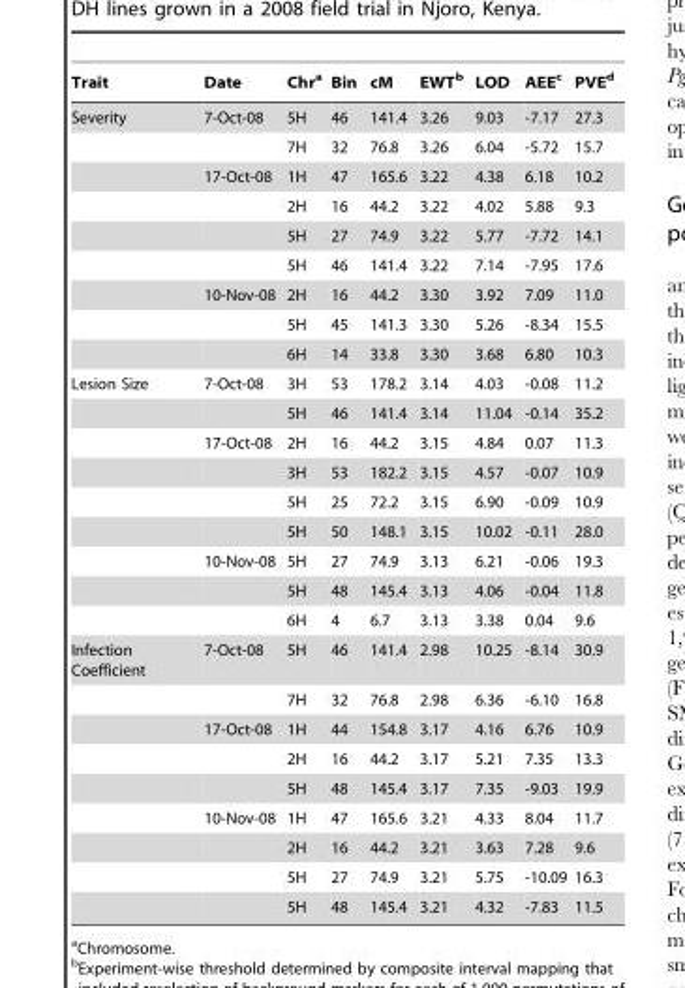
<table><thead><tr><td>Trait</td><td>Date</td><td>Chr<sup>a</sup></td><td>Bin</td><td>cM</td><td>EWT<sup>b</sup></td><td>LOD</td><td>AEE<sup>c</sup></td><td>PVE<sup>d</sup></td></tr></thead><tbody><tr><td rowspan="9">Severity</td><td>7-Oct-08</td><td>5H</td><td>46</td><td>141.4</td><td>3.26</td><td>9.03</td><td>-7.17</td><td>27.3</td></tr><tr><td></td><td>7H</td><td>32</td><td>76.8</td><td>3.26</td><td>6.04</td><td>-5.72</td><td>15.7</td></tr><tr><td>17-Oct-08</td><td>1H</td><td>47</td><td>165.6</td><td>3.22</td><td>4.38</td><td>6.18</td><td>10.2</td></tr><tr><td></td><td>2H</td><td>16</td><td>44.2</td><td>3.22</td><td>4.02</td><td>5.88</td><td>9.3</td></tr><tr><td></td><td>5H</td><td>27</td><td>74.9</td><td>3.22</td><td>5.77</td><td>-7.72</td><td>14.1</td></tr><tr><td></td><td>5H</td><td>46</td><td>141.4</td><td>3.22</td><td>7.14</td><td>-7.95</td><td>17.6</td></tr><tr><td>10-Nov-08</td><td>2H</td><td>16</td><td>44.2</td><td>3.30</td><td>3.92</td><td>7.09</td><td>11.0</td></tr><tr><td></td><td>5H</td><td>45</td><td>141.3</td><td>3.30</td><td>5.26</td><td>-8.34</td><td>15.5</td></tr><tr><td></td><td>6H</td><td>14</td><td>33.8</td><td>3.30</td><td>3.68</td><td>6.80</td><td>10.3</td></tr><tr><td rowspan="9">Lesion Size</td><td>7-Oct-08</td><td>3H</td><td>53</td><td>178.2</td><td>3.14</td><td>4.03</td><td>-0.08</td><td>11.2</td></tr><tr><td></td><td>5H</td><td>46</td><td>141.4</td><td>3.14</td><td>11.04</td><td>-0.14</td><td>35.2</td></tr><tr><td>17-Oct-08</td><td>2H</td><td>16</td><td>44.2</td><td>3.15</td><td>4.84</td><td>0.07</td><td>11.3</td></tr><tr><td></td><td>3H</td><td>53</td><td>182.2</td><td>3.15</td><td>4.57</td><td>-0.07</td><td>10.9</td></tr><tr><td></td><td>5H</td><td>25</td><td>72.2</td><td>3.15</td><td>6.90</td><td>-0.09</td><td>10.9</td></tr><tr><td></td><td>5H</td><td>50</td><td>148.1</td><td>3.15</td><td>10.02</td><td>-0.11</td><td>28.0</td></tr><tr><td>10-Nov-08</td><td>5H</td><td>27</td><td>74.9</td><td>3.13</td><td>6.21</td><td>-0.06</td><td>19.3</td></tr><tr><td></td><td>5H</td><td>48</td><td>145.4</td><td>3.13</td><td>4.06</td><td>-0.04</td><td>11.8</td></tr><tr><td></td><td>6H</td><td>4</td><td>6.7</td><td>3.13</td><td>3.38</td><td>0.04</td><td>9.6</td></tr><tr><td rowspan="9">Infection Coefficient</td><td>7-Oct-08</td><td>5H</td><td>46</td><td>141.4</td><td>2.98</td><td>10.25</td><td>-8.14</td><td>30.9</td></tr><tr><td></td><td>7H</td><td>32</td><td>76.8</td><td>2.98</td><td>6.36</td><td>-6.10</td><td>16.8</td></tr><tr><td>17-Oct-08</td><td>1H</td><td>44</td><td>154.8</td><td>3.17</td><td>4.16</td><td>6.76</td><td>10.9</td></tr><tr><td></td><td>2H</td><td>16</td><td>44.2</td><td>3.17</td><td>5.21</td><td>7.35</td><td>13.3</td></tr><tr><td></td><td>5H</td><td>48</td><td>145.4</td><td>3.17</td><td>7.35</td><td>-9.03</td><td>19.9</td></tr><tr><td>10-Nov-08</td><td>1H</td><td>47</td><td>165.6</td><td>3.21</td><td>4.33</td><td>8.04</td><td>11.7</td></tr><tr><td></td><td>2H</td><td>16</td><td>44.2</td><td>3.21</td><td>3.63</td><td>7.28</td><td>9.6</td></tr><tr><td></td><td>5H</td><td>27</td><td>74.9</td><td>3.21</td><td>5.75</td><td>-10.09</td><td>16.3</td></tr><tr><td></td><td>5H</td><td>48</td><td>145.4</td><td>3.21</td><td>4.32</td><td>-7.83</td><td>11.5</td></tr></tbody></table>